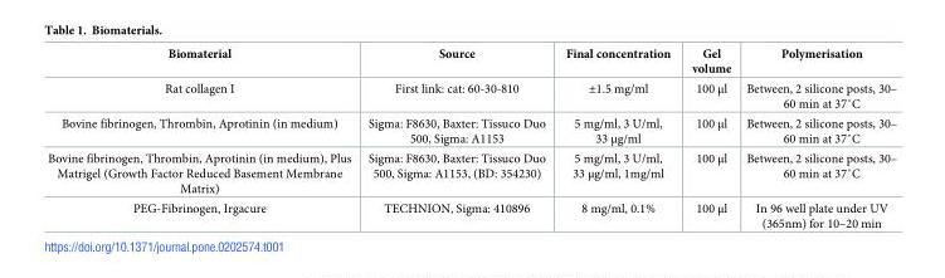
<table><thead><tr><td>Biomaterial</td><td>Source</td><td>Final concentration</td><td>Gel volume</td><td>Polymerisation</td></tr></thead><tbody><tr><td>Rat collagen I</td><td>First link: cat: 60-30-810</td><td>±1.5 mg/ml</td><td>100 μl</td><td>Between, 2 silicone posts, 30– 60 min at 37˚C</td></tr><tr><td>Bovine fibrinogen, Thrombin, Aprotinin (in medium)</td><td>Sigma: F8630, Baxter: Tissuco Duo 500, Sigma: A1153</td><td>5 mg/ml, 3 U/ml, 33 μg/ml</td><td>100 μl</td><td>Between, 2 silicone posts, 30– 60 min at 37˚C</td></tr><tr><td>Bovine fibrinogen, Thrombin, Aprotinin (in medium), Plus Matrigel (Growth Factor Reduced Basement Membrane Matrix)</td><td>Sigma: F8630, Baxter: Tissuco Duo 500, Sigma: A1153, (BD: 354230)</td><td>5 mg/ml, 3 U/ml, 33 μg/ml, 1mg/ml</td><td>100 μl</td><td>Between, 2 silicone posts, 30– 60 min at 37˚C</td></tr><tr><td>PEG-Fibrinogen, Irgacure</td><td>TECHNION, Sigma: 410896</td><td>8 mg/ml, 0.1%</td><td>100 μl</td><td>In 96 well plate under UV (365nm) for 10–20 min</td></tr></tbody></table>